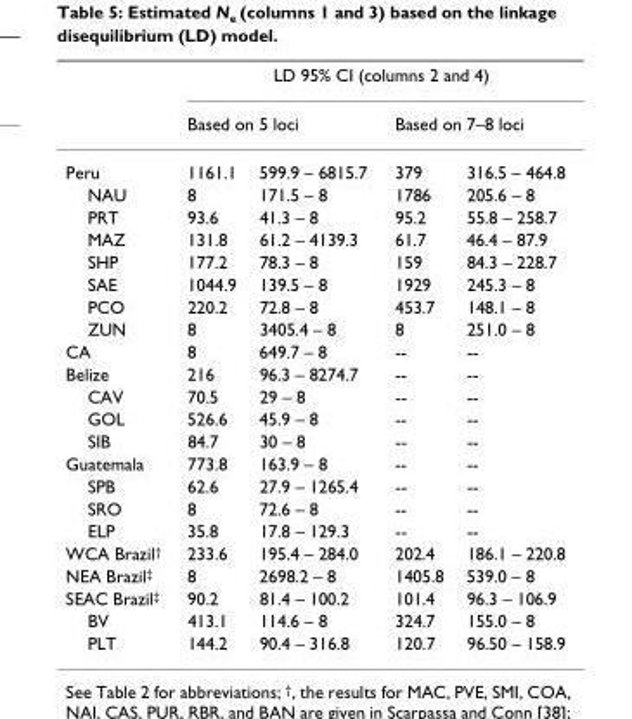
<table><thead><tr><td rowspan="3">Peru</td><td colspan="4">LD 95% CI (columns 2 and 4)</td></tr><tr><td colspan="2">Based on 5 loci</td><td colspan="2">Based on 7–8 loci</td></tr><tr><td>1161.1</td><td>599.9 – 6815.7</td><td>379</td><td>316.5 – 464.8</td></tr></thead><tbody><tr><td>NAU</td><td>8</td><td>171.5 – 8</td><td>1786</td><td>205.6 – 8</td></tr><tr><td>PRT</td><td>93.6</td><td>41.3 – 8</td><td>95.2</td><td>55.8 – 258.7</td></tr><tr><td>MAZ</td><td>131.8</td><td>61.2 – 4139.3</td><td>61.7</td><td>46.4 – 87.9</td></tr><tr><td>SHP</td><td>177.2</td><td>78.3 – 8</td><td>159</td><td>84.3 – 228.7</td></tr><tr><td>SAE</td><td>1044.9</td><td>139.5 – 8</td><td>1929</td><td>245.3 – 8</td></tr><tr><td>PCO</td><td>220.2</td><td>72.8 – 8</td><td>453.7</td><td>148.1 – 8</td></tr><tr><td>ZUN</td><td>8</td><td>3405.4 – 8</td><td>8</td><td>251.0 – 8</td></tr><tr><td>CA</td><td>8</td><td>649.7 – 8</td><td>--</td><td>--</td></tr><tr><td>Belize</td><td>216</td><td>96.3 – 8274.7</td><td>--</td><td>--</td></tr><tr><td>CAV</td><td>70.5</td><td>29 – 8</td><td>--</td><td>--</td></tr><tr><td>GOL</td><td>526.6</td><td>45.9 – 8</td><td>--</td><td>--</td></tr><tr><td>SIB</td><td>84.7</td><td>30 – 8</td><td>--</td><td>--</td></tr><tr><td>Guatemala</td><td>773.8</td><td>163.9 – 8</td><td>--</td><td>--</td></tr><tr><td>SPB</td><td>62.6</td><td>27.9 – 1265.4</td><td>--</td><td>--</td></tr><tr><td>SRO</td><td>8</td><td>72.6 – 8</td><td>--</td><td>--</td></tr><tr><td>ELP</td><td>35.8</td><td>17.8 – 129.3</td><td>--</td><td>--</td></tr><tr><td>WCA Brazil<sup>†</sup></td><td>233.6</td><td>195.4 – 284.0</td><td>202.4</td><td>186.1 – 220.8</td></tr><tr><td>NEA Brazil<sup>‡</sup></td><td>8</td><td>2698.2 – 8</td><td>1405.8</td><td>539.0 – 8</td></tr><tr><td>SEAC Brazil<sup>‡</sup></td><td>90.2</td><td>81.4 – 100.2</td><td>101.4</td><td>96.3 – 106.9</td></tr><tr><td>BV</td><td>413.1</td><td>114.6 – 8</td><td>324.7</td><td>155.0 – 8</td></tr><tr><td>PLT</td><td>144.2</td><td>90.4 – 316.8</td><td>120.7</td><td>96.50 – 158.9</td></tr></tbody></table>